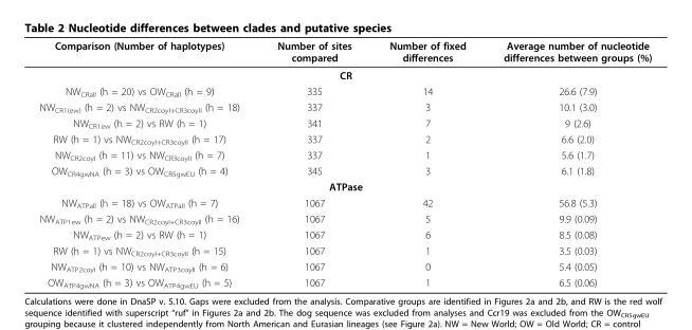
<table><thead><tr><td>Comparison (Number of haplotypes)</td><td>Number of sites compared</td><td>Number of fixed differences</td><td>Average number of nucleotide differences between groups (%)</td></tr></thead><tbody><tr><td colspan="4">CR</td></tr><tr><td>NW<sub>CRall</sub> (h = 20) vs OW<sub>CRall</sub> (h = 9)</td><td>335</td><td>14</td><td>26.6 (7.9)</td></tr><tr><td>NW<sub>CR1(ew)</sub> (h = 2) vs NW<sub>CR2coyI+CR3coyII</sub> (h = 18)</td><td>337</td><td>3</td><td>10.1 (3.0)</td></tr><tr><td>NW<sub>CR1ew</sub> (h = 2) vs RW (h = 1)</td><td>341</td><td>7</td><td>9 (2.6)</td></tr><tr><td>RW (h = 1) vs NW<sub>CR2coyI+CR3coyII</sub> (h = 17)</td><td>337</td><td>2</td><td>6.6 (2.0)</td></tr><tr><td>NW<sub>CR2coyI</sub> (h = 11) vs NW<sub>CR3coyII</sub> (h = 7)</td><td>337</td><td>1</td><td>5.6 (1.7)</td></tr><tr><td>OW<sub>CR4gwNA</sub> (h = 3) vs OW<sub>CR5gwEU</sub> (h = 4)</td><td>345</td><td>3</td><td>6.1 (1.8)</td></tr><tr><td colspan="4">ATPase</td></tr><tr><td>NW<sub>ATPall</sub> (h = 18) vs OW<sub>ATPall</sub> (h = 7)</td><td>1067</td><td>42</td><td>56.8 (5.3)</td></tr><tr><td>NW<sub>ATP1ew</sub> (h = 2) vs NW<sub>CR2coyI+CR3coyII</sub> (h = 16)</td><td>1067</td><td>5</td><td>9.9 (0.09)</td></tr><tr><td>NW<sub>ATPew</sub> (h = 2) vs RW (h = 1)</td><td>1067</td><td>6</td><td>8.5 (0.08)</td></tr><tr><td>RW (h = 1) vs NW<sub>CR2coyI+CR3coyII</sub> (h = 15)</td><td>1067</td><td>1</td><td>3.5 (0.03)</td></tr><tr><td>NW<sub>ATP2coyI</sub> (h = 10) vs NW<sub>ATP3coyII</sub> (h = 6)</td><td>1067</td><td>0</td><td>5.4 (0.05)</td></tr><tr><td>OW<sub>ATP4gwNA</sub> (h = 3) vs OW<sub>ATP4gwEU</sub> (h = 5)</td><td>1067</td><td>1</td><td>6.5 (0.06)</td></tr></tbody></table>